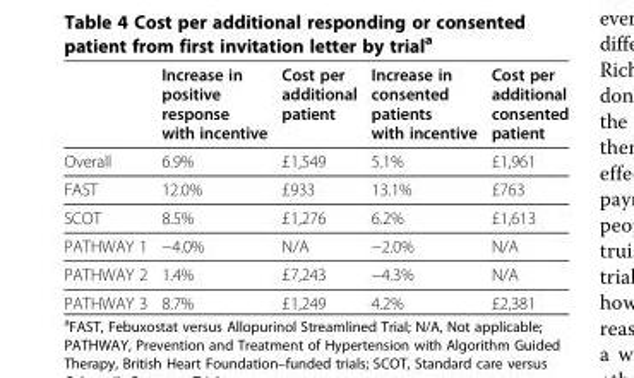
<table><thead><tr><td></td><td>Increase in positive response with incentive</td><td>Cost per additional patient</td><td>Increase in consented patients with incentive</td><td>Cost per additional consented patient</td></tr></thead><tbody><tr><td>Overall</td><td>6.9%</td><td>£1,549</td><td>5.1%</td><td>£1,961</td></tr><tr><td>FAST</td><td>12.0%</td><td>£933</td><td>13.1%</td><td>£763</td></tr><tr><td>SCOT</td><td>8.5%</td><td>£1,276</td><td>6.2%</td><td>£1,613</td></tr><tr><td>PATHWAY 1</td><td>−4.0%</td><td>N/A</td><td>−2.0%</td><td>N/A</td></tr><tr><td>PATHWAY 2</td><td>1.4%</td><td>£7,243</td><td>−4.3%</td><td>N/A</td></tr><tr><td>PATHWAY 3</td><td>8.7%</td><td>£1,249</td><td>4.2%</td><td>£2,381</td></tr></tbody></table>